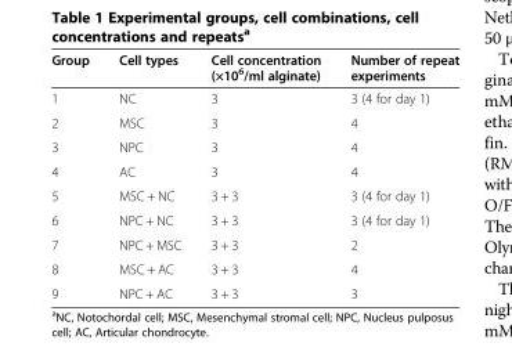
<table><thead><tr><td>Group</td><td>Cell types</td><td>Cell concentration (×10<sup>6</sup>/ml alginate)</td><td>Number of repeat experiments</td></tr></thead><tbody><tr><td>1</td><td>NC</td><td>3</td><td>3 (4 for day 1)</td></tr><tr><td>2</td><td>MSC</td><td>3</td><td>4</td></tr><tr><td>3</td><td>NPC</td><td>3</td><td>4</td></tr><tr><td>4</td><td>AC</td><td>3</td><td>4</td></tr><tr><td>5</td><td>MSC + NC</td><td>3 + 3</td><td>3 (4 for day 1)</td></tr><tr><td>6</td><td>NPC + NC</td><td>3 + 3</td><td>3 (4 for day 1)</td></tr><tr><td>7</td><td>NPC + MSC</td><td>3 + 3</td><td>2</td></tr><tr><td>8</td><td>MSC + AC</td><td>3 + 3</td><td>4</td></tr><tr><td>9</td><td>NPC + AC</td><td>3 + 3</td><td>3</td></tr></tbody></table>